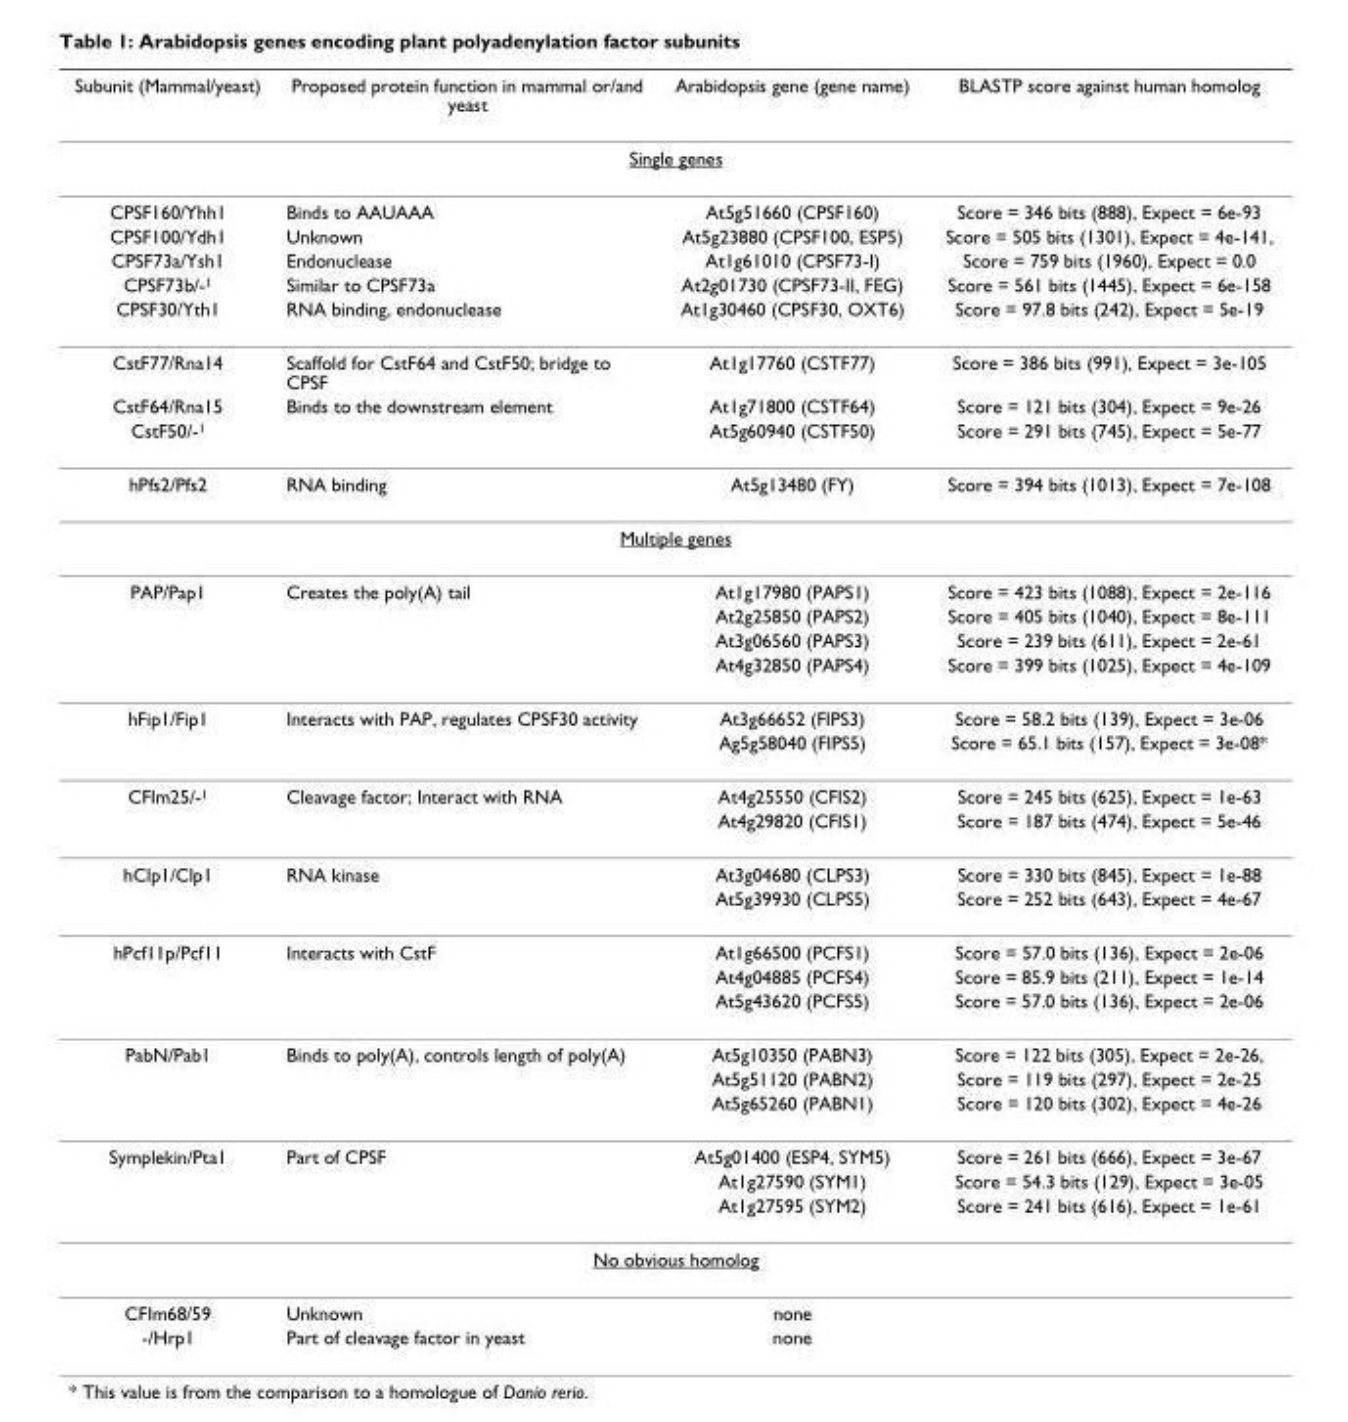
<table><thead><tr><td>Subunit (Mammal/yeast)</td><td>Proposed protein function in mammal or/and yeast</td><td>Arabidopsis gene (gene name)</td><td>BLASTP score against human homolog</td></tr></thead><tbody><tr><td colspan="4">Single genes</td></tr><tr><td>CPSF160/Yhh1</td><td>Binds to AAUAAA</td><td>At5g51660 (CPSF160)</td><td>Score = 346 bits (888), Expect = 6e-93</td></tr><tr><td>CPSF100/Ydh1</td><td>Unknown</td><td>At5g23880 (CPSF100, ESP5)</td><td>Score = 505 bits (1301), Expect = 4e-141,</td></tr><tr><td>CPSF73a/Ysh1</td><td>Endonuclease</td><td>At1g61010 (CPSF73-I)</td><td>Score = 759 bits (1960), Expect = 0.0</td></tr><tr><td>CPSF73b/-<sup>1</sup></td><td>Similar to CPSF73a</td><td>At2g01730 (CPSF73-II, FEG)</td><td>Score = 561 bits (1445), Expect = 6e-158</td></tr><tr><td>CPSF30/Yth1</td><td>RNA binding, endonuclease</td><td>At1g30460 (CPSF30, OXT6)</td><td>Score = 97.8 bits (242), Expect = 5e-19</td></tr><tr><td>CstF77/Rna14</td><td>Scaffold for CstF64 and CstF50; bridge to CPSF</td><td>At1g17760 (CSTF77)</td><td>Score = 386 bits (991), Expect = 3e-105</td></tr><tr><td>CstF64/Rna15</td><td>Binds to the downstream element</td><td>At1g71800 (CSTF64)</td><td>Score = 121 bits (304), Expect = 9e-26</td></tr><tr><td>CstF50/-<sup>1</sup></td><td></td><td>At5g60940 (CSTF50)</td><td>Score = 291 bits (745), Expect = 5e-77</td></tr><tr><td>hPfs2/Pfs2</td><td>RNA binding</td><td>At5g13480 (FY)</td><td>Score = 394 bits (1013), Expect = 7e-108</td></tr><tr><td colspan="4">Multiple genes</td></tr><tr><td rowspan="4">PAP/Pap1</td><td>Creates the poly(A) tail</td><td>At1g17980 (PAPS1)</td><td>Score = 423 bits (1088), Expect = 2e-116</td></tr><tr><td></td><td>At2g25850 (PAPS2)</td><td>Score = 405 bits (1040), Expect = 8e-111</td></tr><tr><td></td><td>At3g06560 (PAPS3)</td><td>Score = 239 bits (611), Expect = 2e-61</td></tr><tr><td></td><td>At4g32850 (PAPS4)</td><td>Score = 399 bits (1025), Expect = 4e-109</td></tr><tr><td rowspan="2">hFip1/Fip1</td><td>Interacts with PAP, regulates CPSF30 activity</td><td>At3g66652 (FIPS3)</td><td>Score = 58.2 bits (139), Expect = 3e-06</td></tr><tr><td></td><td>Ag5g58040 (FIPS5)</td><td>Score = 65.1 bits (157), Expect = 3e-08*</td></tr><tr><td rowspan="2">CFIm25/-<sup>1</sup></td><td>Cleavage factor; Interact with RNA</td><td>At4g25550 (CFIS2)</td><td>Score = 245 bits (625), Expect = 1e-63</td></tr><tr><td></td><td>At4g29820 (CFIS1)</td><td>Score = 187 bits (474), Expect = 5e-46</td></tr><tr><td rowspan="2">hClp1/Clp1</td><td>RNA kinase</td><td>At3g04680 (CLPS3)</td><td>Score = 330 bits (845), Expect = 1e-88</td></tr><tr><td></td><td>At5g39930 (CLPS5)</td><td>Score = 252 bits (643), Expect = 4e-67</td></tr><tr><td rowspan="3">hPcf11p/Pcf11</td><td>Interacts with CstF</td><td>At1g66500 (PCFS1)</td><td>Score = 57.0 bits (136), Expect = 2e-06</td></tr><tr><td></td><td>At4g04885 (PCFS4)</td><td>Score = 85.9 bits (211), Expect = 1e-14</td></tr><tr><td></td><td>At5g43620 (PCFS5)</td><td>Score = 57.0 bits (136), Expect = 2e-06</td></tr><tr><td rowspan="3">PabN/Pab1</td><td>Binds to poly(A), controls length of poly(A)</td><td>At5g10350 (PABN3)</td><td>Score = 122 bits (305), Expect = 2e-26,</td></tr><tr><td></td><td>At5g51120 (PABN2)</td><td>Score = 119 bits (297), Expect = 2e-25</td></tr><tr><td></td><td>At5g65260 (PABN1)</td><td>Score = 120 bits (302), Expect = 4e-26</td></tr><tr><td rowspan="3">Symplekin/Pta1</td><td>Part of CPSF</td><td>At5g01400 (ESP4, SYM5)</td><td>Score = 261 bits (666), Expect = 3e-67</td></tr><tr><td></td><td>At1g27590 (SYM1)</td><td>Score = 54.3 bits (129), Expect = 3e-05</td></tr><tr><td></td><td>At1g27595 (SYM2)</td><td>Score = 241 bits (616), Expect = 1e-61</td></tr><tr><td colspan="4">No obvious homolog</td></tr><tr><td>CFIm68/59</td><td>Unknown</td><td>none</td><td></td></tr><tr><td>-/Hrp1</td><td>Part of cleavage factor in yeast</td><td>none</td><td></td></tr></tbody></table>